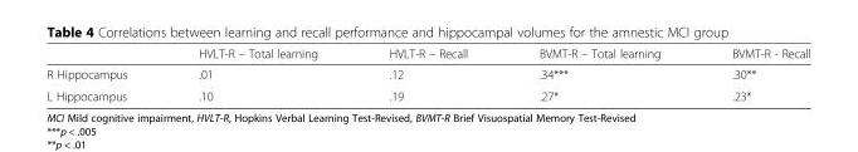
<table><thead><tr><td></td><td>HVLT-R – Total learning</td><td>HVLT-R – Recall</td><td>BVMT-R – Total learning</td><td>BVMT-R - Recall</td></tr></thead><tbody><tr><td>R Hippocampus</td><td>.01</td><td>.12</td><td>.34***</td><td>.30**</td></tr><tr><td>L Hippocampus</td><td>.10</td><td>.19</td><td>.27*</td><td>.23*</td></tr></tbody></table>